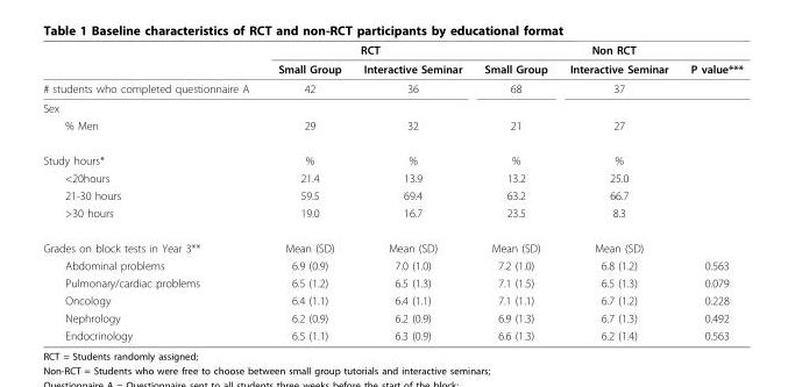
<table><thead><tr><td rowspan="2"></td><td colspan="2">RCT</td><td colspan="3">Non RCT</td></tr><tr><td>Small Group</td><td>Interactive Seminar</td><td>Small Group</td><td>Interactive Seminar</td><td>P value***</td></tr></thead><tbody><tr><td># students who completed questionnaire A</td><td>42</td><td>36</td><td>68</td><td>37</td><td></td></tr><tr><td colspan="6">Sex</td></tr><tr><td>% Men</td><td>29</td><td>32</td><td>21</td><td>27</td><td></td></tr><tr><td>Study hours*</td><td>%</td><td>%</td><td>%</td><td>%</td><td></td></tr><tr><td>&lt;20hours</td><td>21.4</td><td>13.9</td><td>13.2</td><td>25.0</td><td></td></tr><tr><td>21-30 hours</td><td>59.5</td><td>69.4</td><td>63.2</td><td>66.7</td><td></td></tr><tr><td>&gt;30 hours</td><td>19.0</td><td>16.7</td><td>23.5</td><td>8.3</td><td></td></tr><tr><td>Grades on block tests in Year 3**</td><td>Mean (SD)</td><td>Mean (SD)</td><td>Mean (SD)</td><td>Mean (SD)</td><td></td></tr><tr><td>Abdominal problems</td><td>6.9 (0.9)</td><td>7.0 (1.0)</td><td>7.2 (1.0)</td><td>6.8 (1.2)</td><td>0.563</td></tr><tr><td>Pulmonary/cardiac problems</td><td>6.5 (1.2)</td><td>6.5 (1.3)</td><td>7.1 (1.5)</td><td>6.5 (1.3)</td><td>0.079</td></tr><tr><td>Oncology</td><td>6.4 (1.1)</td><td>6.4 (1.1)</td><td>7.1 (1.1)</td><td>6.7 (1.2)</td><td>0.228</td></tr><tr><td>Nephrology</td><td>6.2 (0.9)</td><td>6.2 (0.9)</td><td>6.9 (1.3)</td><td>6.7 (1.3)</td><td>0.492</td></tr><tr><td>Endocrinology</td><td>6.5 (1.1)</td><td>6.3 (0.9)</td><td>6.6 (1.3)</td><td>6.2 (1.4)</td><td>0.563</td></tr></tbody></table>